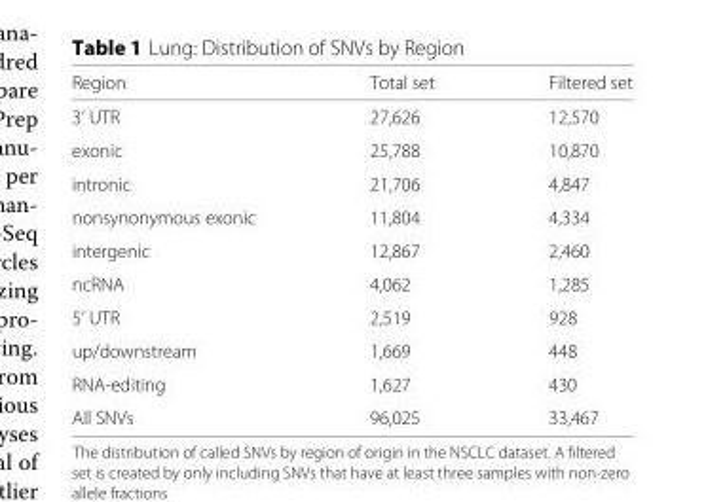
<table><thead><tr><td>Region</td><td>Total set</td><td>Filtered set</td></tr></thead><tbody><tr><td>3’ UTR</td><td>27,626</td><td>12,570</td></tr><tr><td>exonic</td><td>25,788</td><td>10,870</td></tr><tr><td>intronic</td><td>21,706</td><td>4,847</td></tr><tr><td>nonsynonymous exonic</td><td>11,804</td><td>4,334</td></tr><tr><td>intergenic</td><td>12,867</td><td>2,460</td></tr><tr><td>ncRNA</td><td>4,062</td><td>1,285</td></tr><tr><td>5’ UTR</td><td>2,519</td><td>928</td></tr><tr><td>up/downstream</td><td>1,669</td><td>448</td></tr><tr><td>RNA-editing</td><td>1,627</td><td>430</td></tr><tr><td>All SNVs</td><td>96,025</td><td>33,467</td></tr></tbody></table>